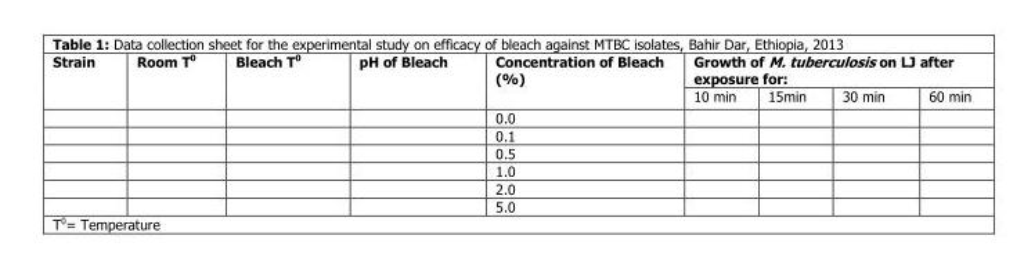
<table><thead><tr><td rowspan="2">Strain</td><td rowspan="2">Room T<sup>0</sup></td><td rowspan="2">Bleach T<sup>0</sup></td><td rowspan="2">pH of Bleach</td><td rowspan="2">Concentration of Bleach (%)</td><td colspan="4">Growth of M. tuberculosis on LJ after exposure for:</td></tr><tr><td>10 min</td><td>15min</td><td>30 min</td><td>60 min</td></tr></thead><tbody><tr><td></td><td></td><td></td><td></td><td>0.0</td><td></td><td></td><td></td><td></td></tr><tr><td></td><td></td><td></td><td></td><td>0.1</td><td></td><td></td><td></td><td></td></tr><tr><td></td><td></td><td></td><td></td><td>0.5</td><td></td><td></td><td></td><td></td></tr><tr><td></td><td></td><td></td><td></td><td>1.0</td><td></td><td></td><td></td><td></td></tr><tr><td></td><td></td><td></td><td></td><td>2.0</td><td></td><td></td><td></td><td></td></tr><tr><td></td><td></td><td></td><td></td><td>5.0</td><td></td><td></td><td></td><td></td></tr></tbody></table>